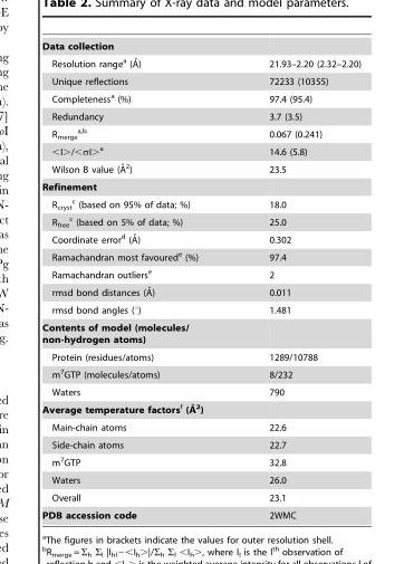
<table><tbody><tr><td colspan="2">Data collection</td></tr><tr><td>Resolution rangea (A˚)</td><td>21.93–2.20 (2.32–2.20)</td></tr><tr><td>Unique reflections</td><td>72233 (10355)</td></tr><tr><td>Completeness<sup>a</sup> (%)</td><td>97.4 (95.4)</td></tr><tr><td>Redundancy</td><td>3.7 (3.5)</td></tr><tr><td>R<sub>merge</sub> a<sup>,</sup>b</td><td>0.067 (0.241)</td></tr><tr><td>&lt;I&gt;/&lt;σI&gt;<sup>a</sup></td><td>14.6 (5.8)</td></tr><tr><td>Wilson B value (A˚2)</td><td>23.5</td></tr><tr><td colspan="2">Refinement</td></tr><tr><td>R<sub>cryst</sub> c (based on 95% of data; %)</td><td>18.0</td></tr><tr><td>R<sub>free</sub> c (based on 5% of data; %)</td><td>25.0</td></tr><tr><td>Coordinate errord (A˚)</td><td>0.302</td></tr><tr><td>Ramachandran most favoured<sup>e</sup> (%)</td><td>97.4</td></tr><tr><td>Ramachandran outliers<sup>e</sup></td><td>2</td></tr><tr><td>rmsd bond distances (A˚)</td><td>0.011</td></tr><tr><td>rmsd bond angles (°)</td><td>1.481</td></tr><tr><td colspan="2">Contents of model (molecules/ non-hydrogen atoms)</td></tr><tr><td>Protein (residues/atoms)</td><td>1289/10788</td></tr><tr><td>m<sup>7</sup>GTP (molecules/atoms)</td><td>8/232</td></tr><tr><td>Waters</td><td>790</td></tr><tr><td colspan="2">Average temperature factorsf (A˚ 2)</td></tr><tr><td>Main-chain atoms</td><td>22.6</td></tr><tr><td>Side-chain atoms</td><td>22.7</td></tr><tr><td>m<sup>7</sup>GTP</td><td>32.8</td></tr><tr><td>Waters</td><td>26.0</td></tr><tr><td>Overall</td><td>23.1</td></tr><tr><td>PDB accession code</td><td>2WMC</td></tr></tbody></table>